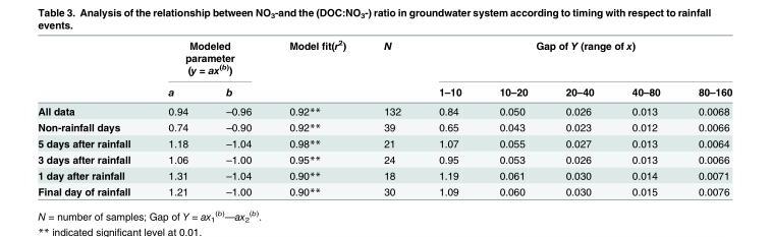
<table><thead><tr><td rowspan="2"></td><td colspan="2">Modeled parameter (y = ax<sup>(b)</sup>)</td><td rowspan="2">Model fit(r<sup>2</sup>)</td><td rowspan="2">N</td><td colspan="5">Gap of Y (range of x)</td></tr><tr><td>a</td><td>b</td><td>1–10</td><td>10–20</td><td>20–40</td><td>40–80</td><td>80–160</td></tr></thead><tbody><tr><td>All data</td><td>0.94</td><td>–0.96</td><td>0.92**</td><td>132</td><td>0.84</td><td>0.050</td><td>0.026</td><td>0.013</td><td>0.0068</td></tr><tr><td>Non-rainfall days</td><td>0.74</td><td>–0.90</td><td>0.92**</td><td>39</td><td>0.65</td><td>0.043</td><td>0.023</td><td>0.012</td><td>0.0066</td></tr><tr><td>5 days after rainfall</td><td>1.18</td><td>–1.04</td><td>0.98**</td><td>21</td><td>1.07</td><td>0.055</td><td>0.027</td><td>0.013</td><td>0.0064</td></tr><tr><td>3 days after rainfall</td><td>1.06</td><td>–1.00</td><td>0.95**</td><td>24</td><td>0.95</td><td>0.053</td><td>0.026</td><td>0.013</td><td>0.0066</td></tr><tr><td>1 day after rainfall</td><td>1.31</td><td>–1.04</td><td>0.90**</td><td>18</td><td>1.19</td><td>0.061</td><td>0.030</td><td>0.014</td><td>0.0071</td></tr><tr><td>Final day of rainfall</td><td>1.21</td><td>–1.00</td><td>0.90**</td><td>30</td><td>1.09</td><td>0.060</td><td>0.030</td><td>0.015</td><td>0.0076</td></tr></tbody></table>